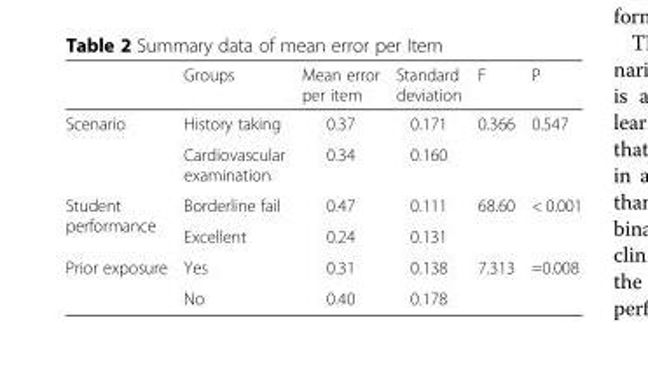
<table><thead><tr><td></td><td>Groups</td><td>Mean error per item</td><td>Standard deviation</td><td>F</td><td>P</td></tr></thead><tbody><tr><td rowspan="2">Scenario</td><td>History taking</td><td>0.37</td><td>0.171</td><td rowspan="2">0.366</td><td rowspan="2">0.547</td></tr><tr><td>Cardiovascular examination</td><td>0.34</td><td>0.160</td></tr><tr><td rowspan="2">Student performance</td><td>Borderline fail</td><td>0.47</td><td>0.111</td><td rowspan="2">68.60</td><td rowspan="2">&lt; 0.001</td></tr><tr><td>Excellent</td><td>0.24</td><td>0.131</td></tr><tr><td rowspan="2">Prior exposure</td><td>Yes</td><td>0.31</td><td>0.138</td><td rowspan="2">7.313</td><td rowspan="2">=0.008</td></tr><tr><td>No</td><td>0.40</td><td>0.178</td></tr></tbody></table>